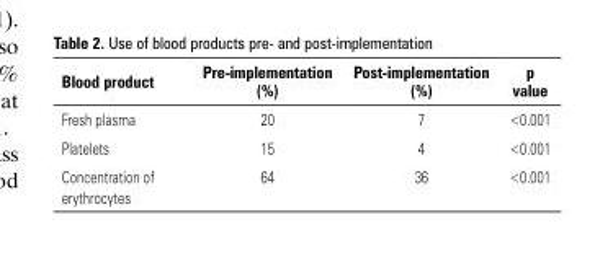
<table><thead><tr><td>Blood product</td><td>Pre-implementation (%)</td><td>Post-implementation (%)</td><td>p value</td></tr></thead><tbody><tr><td>Fresh plasma</td><td>20</td><td>7</td><td>&lt;0.001</td></tr><tr><td>Platelets</td><td>15</td><td>4</td><td>&lt;0.001</td></tr><tr><td>Concentration of erythrocytes</td><td>64</td><td>36</td><td>&lt;0.001</td></tr></tbody></table>